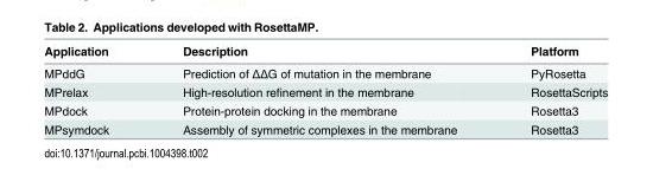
<table><thead><tr><td>Application</td><td>Description</td><td>Platform</td></tr></thead><tbody><tr><td>MPddG</td><td>Prediction of ΔΔG of mutation in the membrane</td><td>PyRosetta</td></tr><tr><td>MPrelax</td><td>High-resolution refinement in the membrane</td><td>RosettaScripts</td></tr><tr><td>MPdock</td><td>Protein-protein docking in the membrane</td><td>Rosetta3</td></tr><tr><td>MPsymdock</td><td>Assembly of symmetric complexes in the membrane</td><td>Rosetta3</td></tr></tbody></table>